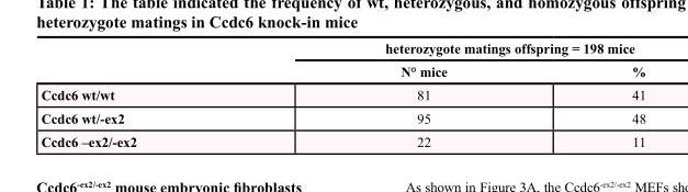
<table><thead><tr><td rowspan="2"></td><td colspan="2">heterozygote matings offspring = 198 mice</td></tr><tr><td>N° mice</td><td>%</td></tr></thead><tbody><tr><td>Ccdc6 wt/wt</td><td>81</td><td>41</td></tr><tr><td>Ccdc6 wt/-ex2</td><td>95</td><td>48</td></tr><tr><td>Ccdc6 –ex2/-ex2</td><td>22</td><td>11</td></tr></tbody></table>